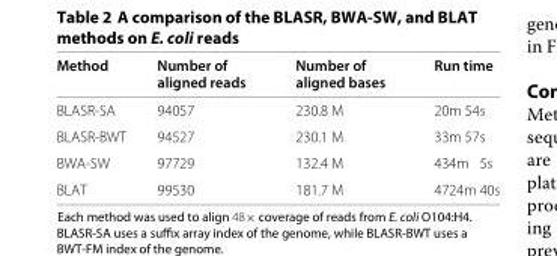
<table><thead><tr><td>Method</td><td>Number of aligned reads</td><td>Number of aligned bases</td><td>Run time</td></tr></thead><tbody><tr><td>BLASR-SA</td><td>94057</td><td>230.8 M</td><td>20m 54s</td></tr><tr><td>BLASR-BWT</td><td>94527</td><td>230.1 M</td><td>33m 57s</td></tr><tr><td>BWA-SW</td><td>97729</td><td>132.4 M</td><td>434m 5s</td></tr><tr><td>BLAT</td><td>99530</td><td>181.7 M</td><td>4724m 40s</td></tr></tbody></table>